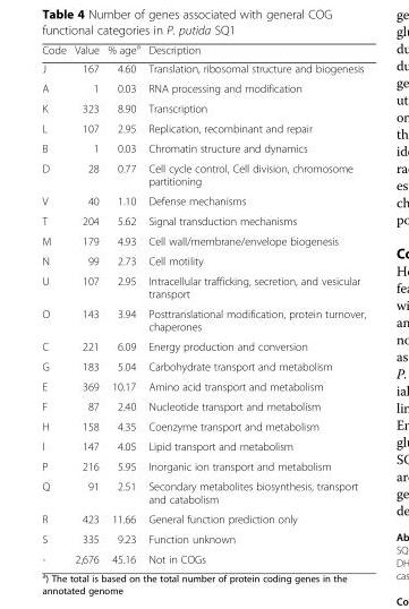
<table><thead><tr><td>Code</td><td>Value</td><td>% age<sup>a</sup></td><td>Description</td></tr></thead><tbody><tr><td>J</td><td>167</td><td>4.60</td><td>Translation, ribosomal structure and biogenesis</td></tr><tr><td>A</td><td>1</td><td>0.03</td><td>RNA processing and modification</td></tr><tr><td>K</td><td>323</td><td>8.90</td><td>Transcription</td></tr><tr><td>L</td><td>107</td><td>2.95</td><td>Replication, recombinant and repair</td></tr><tr><td>B</td><td>1</td><td>0.03</td><td>Chromatin structure and dynamics</td></tr><tr><td>D</td><td>28</td><td>0.77</td><td>Cell cycle control, Cell division, chromosome partitioning</td></tr><tr><td>V</td><td>40</td><td>1.10</td><td>Defense mechanisms</td></tr><tr><td>T</td><td>204</td><td>5.62</td><td>Signal transduction mechanisms</td></tr><tr><td>M</td><td>179</td><td>4.93</td><td>Cell wall/membrane/envelope biogenesis</td></tr><tr><td>N</td><td>99</td><td>2.73</td><td>Cell motility</td></tr><tr><td>U</td><td>107</td><td>2.95</td><td>Intracellular trafficking, secretion, and vesicular transport</td></tr><tr><td>O</td><td>143</td><td>3.94</td><td>Posttranslational modification, protein turnover, chaperones</td></tr><tr><td>C</td><td>221</td><td>6.09</td><td>Energy production and conversion</td></tr><tr><td>G</td><td>183</td><td>5.04</td><td>Carbohydrate transport and metabolism</td></tr><tr><td>E</td><td>369</td><td>10.17</td><td>Amino acid transport and metabolism</td></tr><tr><td>F</td><td>87</td><td>2.40</td><td>Nucleotide transport and metabolism</td></tr><tr><td>H</td><td>158</td><td>4.35</td><td>Coenzyme transport and metabolism</td></tr><tr><td>I</td><td>147</td><td>4.05</td><td>Lipid transport and metabolism</td></tr><tr><td>P</td><td>216</td><td>5.95</td><td>Inorganic ion transport and metabolism</td></tr><tr><td>Q</td><td>91</td><td>2.51</td><td>Secondary metabolites biosynthesis, transport and catabolism</td></tr><tr><td>R</td><td>423</td><td>11.66</td><td>General function prediction only</td></tr><tr><td>S</td><td>335</td><td>9.23</td><td>Function unknown</td></tr><tr><td>-</td><td>2,676</td><td>45.16</td><td>Not in COGs</td></tr></tbody></table>